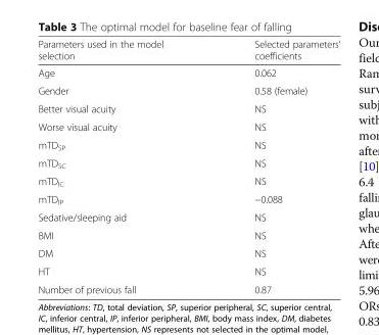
<table><thead><tr><td>Parameters used in the model selection</td><td>Selected parameters’ coefficients</td></tr></thead><tbody><tr><td>Age</td><td>0.062</td></tr><tr><td>Gender</td><td>0.58 (female)</td></tr><tr><td>Better visual acuity</td><td>NS</td></tr><tr><td>Worse visual acuity</td><td>NS</td></tr><tr><td>mTD<sub>SP</sub></td><td>NS</td></tr><tr><td>mTD<sub>SC</sub></td><td>NS</td></tr><tr><td>mTD<sub>IC</sub></td><td>NS</td></tr><tr><td>mTD<sub>IP</sub></td><td>−0.088</td></tr><tr><td>Sedative/sleeping aid</td><td>NS</td></tr><tr><td>BMI</td><td>NS</td></tr><tr><td>DM</td><td>NS</td></tr><tr><td>HT</td><td>NS</td></tr><tr><td>Number of previous fall</td><td>0.87</td></tr></tbody></table>